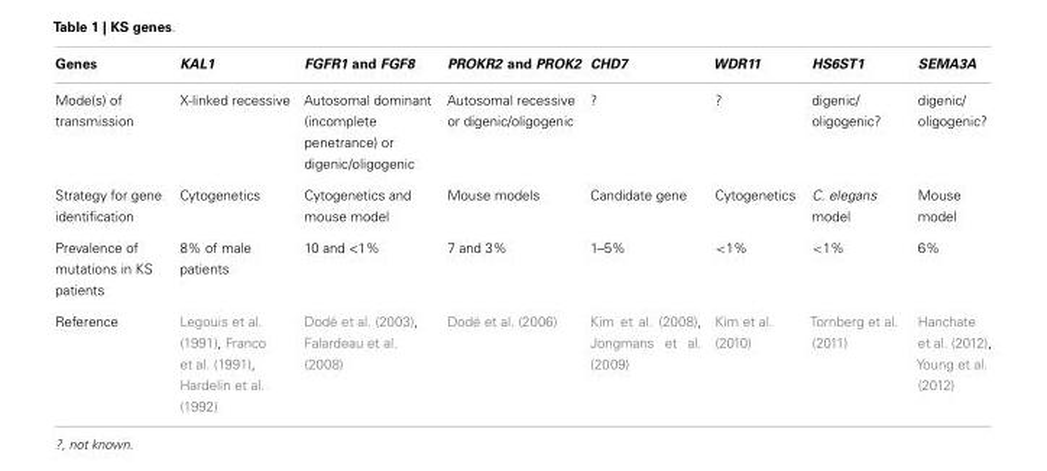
<table><thead><tr><td>Genes</td><td>KAL1</td><td>FGFR1 and FGF8</td><td>PROKR2 and PROK2</td><td>CHD7</td><td>WDR11</td><td>HS6ST1</td><td>SEMA3A</td></tr></thead><tbody><tr><td>Mode(s) of transmission</td><td>X-linked recessive</td><td>Autosomal dominant (incomplete penetrance) or digenic/oligogenic</td><td>Autosomal recessive or digenic/oligogenic</td><td>?</td><td>?</td><td>digenic/ oligogenic?</td><td>digenic/ oligogenic?</td></tr><tr><td>Strategy for gene identification</td><td>Cytogenetics</td><td>Cytogenetics and mouse model</td><td>Mouse models</td><td>Candidate gene</td><td>Cytogenetics</td><td>C. elegans model</td><td>Mouse model</td></tr><tr><td>Prevalence of mutations in KS patients</td><td>8% of male patients</td><td>10 and &lt;1%</td><td>7 and 3%</td><td>1–5%</td><td>&lt;1%</td><td>&lt;1%</td><td>6%</td></tr><tr><td>Reference</td><td>Legouis et al. (1991), Franco et al. (1991), Hardelin et al. (1992)</td><td>Dodé et al. (2003), Falardeau et al. (2008)</td><td>Dodé et al. (2006)</td><td>Kim et al. (2008), Jongmans et al. (2009)</td><td>Kim et al. (2010)</td><td>Tornberg et al. (2011)</td><td>Hanchate et al. (2012), Young et al. (2012)</td></tr></tbody></table>